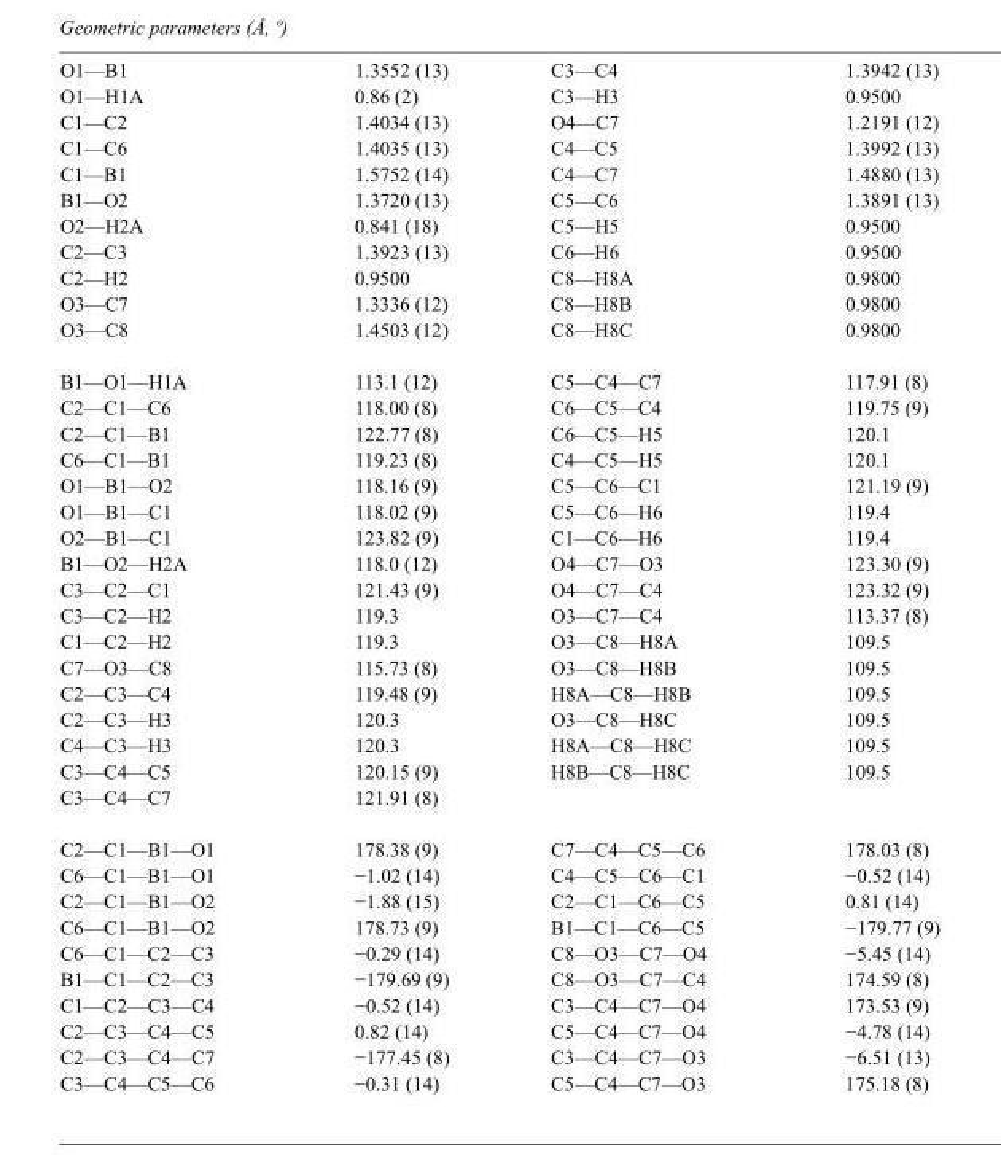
<table><tbody><tr><td>O1—B1</td><td>1.3552 (13)</td><td>C3—C4</td><td>1.3942 (13)</td></tr><tr><td>O1—H1A</td><td>0.86 (2)</td><td>C3—H3</td><td>0.9500</td></tr><tr><td>C1—C2</td><td>1.4034 (13)</td><td>O4—C7</td><td>1.2191 (12)</td></tr><tr><td>C1—C6</td><td>1.4035 (13)</td><td>C4—C5</td><td>1.3992 (13)</td></tr><tr><td>C1—B1</td><td>1.5752 (14)</td><td>C4—C7</td><td>1.4880 (13)</td></tr><tr><td>B1—O2</td><td>1.3720 (13)</td><td>C5—C6</td><td>1.3891 (13)</td></tr><tr><td>O2—H2A</td><td>0.841 (18)</td><td>C5—H5</td><td>0.9500</td></tr><tr><td>C2—C3</td><td>1.3923 (13)</td><td>C6—H6</td><td>0.9500</td></tr><tr><td>C2—H2</td><td>0.9500</td><td>C8—H8A</td><td>0.9800</td></tr><tr><td>O3—C7</td><td>1.3336 (12)</td><td>C8—H8B</td><td>0.9800</td></tr><tr><td>O3—C8</td><td>1.4503 (12)</td><td>C8—H8C</td><td>0.9800</td></tr><tr><td>B1—O1—H1A</td><td>113.1 (12)</td><td>C5—C4—C7</td><td>117.91 (8)</td></tr><tr><td>C2—C1—C6</td><td>118.00 (8)</td><td>C6—C5—C4</td><td>119.75 (9)</td></tr><tr><td>C2—C1—B1</td><td>122.77 (8)</td><td>C6—C5—H5</td><td>120.1</td></tr><tr><td>C6—C1—B1</td><td>119.23 (8)</td><td>C4—C5—H5</td><td>120.1</td></tr><tr><td>O1—B1—O2</td><td>118.16 (9)</td><td>C5—C6—C1</td><td>121.19 (9)</td></tr><tr><td>O1—B1—C1</td><td>118.02 (9)</td><td>C5—C6—H6</td><td>119.4</td></tr><tr><td>O2—B1—C1</td><td>123.82 (9)</td><td>C1—C6—H6</td><td>119.4</td></tr><tr><td>B1—O2—H2A</td><td>118.0 (12)</td><td>O4—C7—O3</td><td>123.30 (9)</td></tr><tr><td>C3—C2—C1</td><td>121.43 (9)</td><td>O4—C7—C4</td><td>123.32 (9)</td></tr><tr><td>C3—C2—H2</td><td>119.3</td><td>O3—C7—C4</td><td>113.37 (8)</td></tr><tr><td>C1—C2—H2</td><td>119.3</td><td>O3—C8—H8A</td><td>109.5</td></tr><tr><td>C7—O3—C8</td><td>115.73 (8)</td><td>O3—C8—H8B</td><td>109.5</td></tr><tr><td>C2—C3—C4</td><td>119.48 (9)</td><td>H8A—C8—H8B</td><td>109.5</td></tr><tr><td>C2—C3—H3</td><td>120.3</td><td>O3—C8—H8C</td><td>109.5</td></tr><tr><td>C4—C3—H3</td><td>120.3</td><td>H8A—C8—H8C</td><td>109.5</td></tr><tr><td>C3—C4—C5</td><td>120.15 (9)</td><td>H8B—C8—H8C</td><td>109.5</td></tr><tr><td>C3—C4—C7</td><td>121.91 (8)</td><td></td><td></td></tr><tr><td>C2—C1—B1—O1</td><td>178.38 (9)</td><td>C7—C4—C5—C6</td><td>178.03 (8)</td></tr><tr><td>C6—C1—B1—O1</td><td>−1.02 (14)</td><td>C4—C5—C6—C1</td><td>−0.52 (14)</td></tr><tr><td>C2—C1—B1—O2</td><td>−1.88 (15)</td><td>C2—C1—C6—C5</td><td>0.81 (14)</td></tr><tr><td>C6—C1—B1—O2</td><td>178.73 (9)</td><td>B1—C1—C6—C5</td><td>−179.77 (9)</td></tr><tr><td>C6—C1—C2—C3</td><td>−0.29 (14)</td><td>C8—O3—C7—O4</td><td>−5.45 (14)</td></tr><tr><td>B1—C1—C2—C3</td><td>−179.69 (9)</td><td>C8—O3—C7—C4</td><td>174.59 (8)</td></tr><tr><td>C1—C2—C3—C4</td><td>−0.52 (14)</td><td>C3—C4—C7—O4</td><td>173.53 (9)</td></tr><tr><td>C2—C3—C4—C5</td><td>0.82 (14)</td><td>C5—C4—C7—O4</td><td>−4.78 (14)</td></tr><tr><td>C2—C3—C4—C7</td><td>−177.45 (8)</td><td>C3—C4—C7—O3</td><td>−6.51 (13)</td></tr><tr><td>C3—C4—C5—C6</td><td>−0.31 (14)</td><td>C5—C4—C7—O3</td><td>175.18 (8)</td></tr></tbody></table>